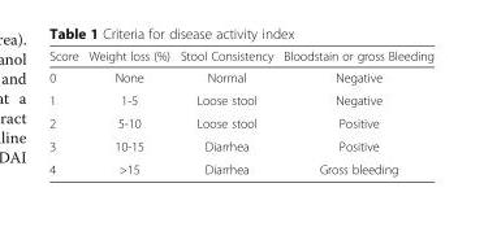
<table><thead><tr><td>Score</td><td>Weight loss (%)</td><td>Stool Consistency</td><td>Bloodstain or gross Bleeding</td></tr></thead><tbody><tr><td>0</td><td>None</td><td>Normal</td><td>Negative</td></tr><tr><td>1</td><td>1-5</td><td>Loose stool</td><td>Negative</td></tr><tr><td>2</td><td>5-10</td><td>Loose stool</td><td>Positive</td></tr><tr><td>3</td><td>10-15</td><td>Diarrhea</td><td>Positive</td></tr><tr><td>4</td><td>&gt;15</td><td>Diarrhea</td><td>Gross bleeding</td></tr></tbody></table>